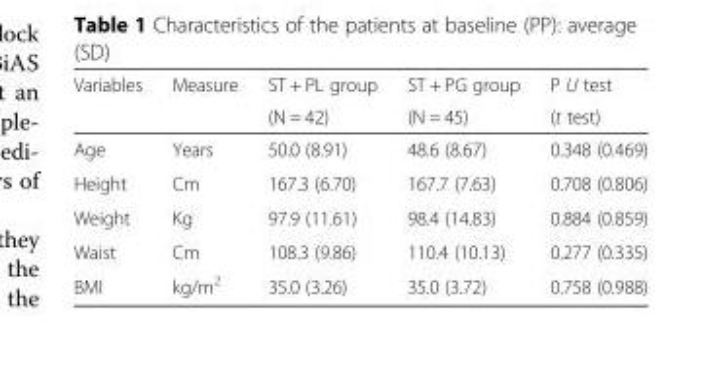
<table><thead><tr><td rowspan="2">Variables</td><td rowspan="2">Measure</td><td rowspan="2">ST + PL group (N = 42)</td><td rowspan="2">ST + PG group (N = 45)</td><td rowspan="2">P U test (t test)</td></tr><tr></tr></thead><tbody><tr><td>Age</td><td>Years</td><td>50.0 (8.91)</td><td>48.6 (8.67)</td><td>0.348 (0.469)</td></tr><tr><td>Height</td><td>Cm</td><td>167.3 (6.70)</td><td>167.7 (7.63)</td><td>0.708 (0.806)</td></tr><tr><td>Weight</td><td>Kg</td><td>97.9 (11.61)</td><td>98.4 (14.83)</td><td>0.884 (0.859)</td></tr><tr><td>Waist</td><td>Cm</td><td>108.3 (9.86)</td><td>110.4 (10.13)</td><td>0.277 (0.335)</td></tr><tr><td>BMI</td><td>kg/m<sup>2</sup></td><td>35.0 (3.26)</td><td>35.0 (3.72)</td><td>0.758 (0.988)</td></tr></tbody></table>